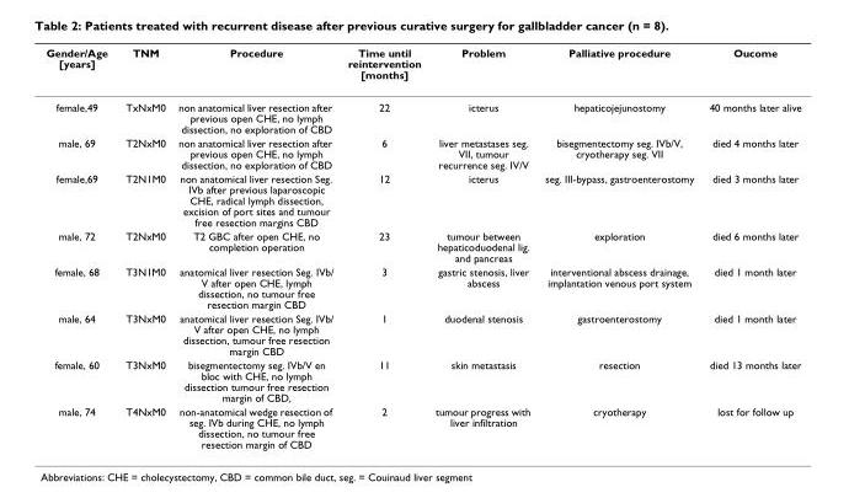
<table><thead><tr><td>Gender/Age [years]</td><td>TNM</td><td>Procedure</td><td>Time until reintervention [months]</td><td>Problem</td><td>Palliative procedure</td><td>Oucome</td></tr></thead><tbody><tr><td>female,49</td><td>TxNxM0</td><td>non anatomical liver resection after previous open CHE, no lymph dissection, no exploration of CBD</td><td>22</td><td>icterus</td><td>hepaticojejunostomy</td><td>40 months later alive</td></tr><tr><td>male, 69</td><td>T2NxM0</td><td>non anatomical liver resection after previous open CHE, no lymph dissection, no exploration of CBD</td><td>6</td><td>liver metastases seg. VII, tumour recurrence seg. IV/V</td><td>bisegmentectomy seg. IVb/V, cryotherapy seg. VII</td><td>died 4 months later</td></tr><tr><td>female,69</td><td>T2N1M0</td><td>non anatomical liver resection Seg. IVb after previous laparoscopic CHE, radical lymph dissection, excision of port sites and tumour free resection margins CBD</td><td>12</td><td>icterus</td><td>seg. III-bypass, gastroenterostomy</td><td>died 3 months later</td></tr><tr><td>male, 72</td><td>T2NxM0</td><td>T2 GBC after open CHE, no completion operation</td><td>23</td><td>tumour between hepaticoduodenal lig. and pancreas</td><td>exploration</td><td>died 6 months later</td></tr><tr><td>female, 68</td><td>T3N1M0</td><td>anatomical liver resection Seg. IVb/ V after open CHE, lymph dissection, no tumour free resection margin CBD</td><td>3</td><td>gastric stenosis, liver abscess</td><td>interventional abscess drainage, implantation venous port system</td><td>died 1 month later</td></tr><tr><td>male, 64</td><td>T3NxM0</td><td>anatomical liver resection Seg. IVb/ V after open CHE, no lymph dissection, tumour free resection margin CBD</td><td>1</td><td>duodenal stenosis</td><td>gastroenterostomy</td><td>died 1 month later</td></tr><tr><td>female, 60</td><td>T3NxM0</td><td>bisegmentectomy seg. IVb/V en bloc with CHE, no lymph dissection tumour free resection margin of CBD,</td><td>11</td><td>skin metastasis</td><td>resection</td><td>died 13 months later</td></tr><tr><td>male, 74</td><td>T4NxM0</td><td>non-anatomical wedge resection of seg. IVb during CHE, no lymph dissection, no tumour free resection margin of CBD</td><td>2</td><td>tumour progress with liver infiltration</td><td>cryotherapy</td><td>lost for follow up</td></tr></tbody></table>